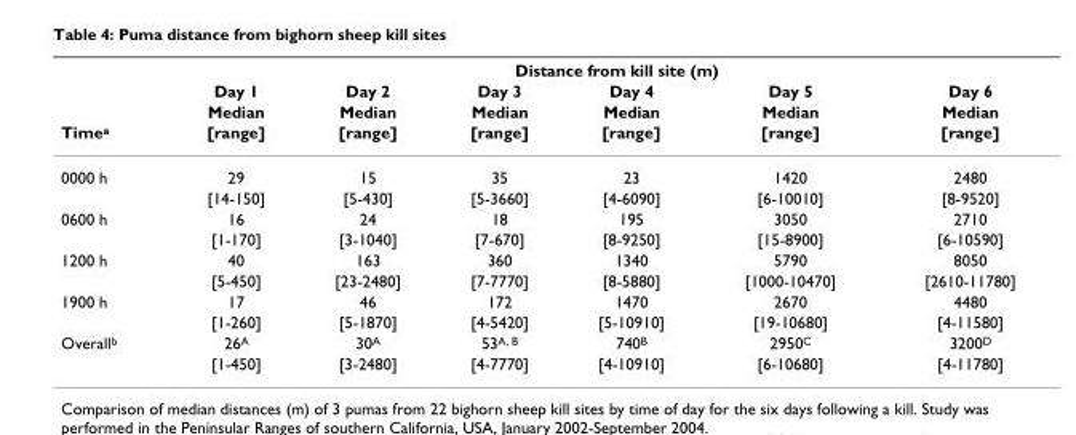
<table><thead><tr><td rowspan="4">Time<sup>a</sup></td><td colspan="6">Distance from kill site (m)</td></tr><tr><td rowspan="3">Day 1 Median [range]</td><td rowspan="3">Day 2 Median [range]</td><td rowspan="3">Day 3 Median [range]</td><td rowspan="3">Day 4 Median [range]</td><td rowspan="3">Day 5 Median [range]</td><td rowspan="3">Day 6 Median [range]</td></tr><tr></tr><tr></tr></thead><tbody><tr><td rowspan="2">0000 h</td><td>29</td><td>15</td><td>35</td><td>23</td><td>1420</td><td>2480</td></tr><tr><td>[14-150]</td><td>[5-430]</td><td>[5-3660]</td><td>[4-6090]</td><td>[6-10010]</td><td>[8-9520]</td></tr><tr><td rowspan="2">0600 h</td><td>16</td><td>24</td><td>18</td><td>195</td><td>3050</td><td>2710</td></tr><tr><td>[1-170]</td><td>[3-1040]</td><td>[7-670]</td><td>[8-9250]</td><td>[15-8900]</td><td>[6-10590]</td></tr><tr><td rowspan="2">1200 h</td><td>40</td><td>163</td><td>360</td><td>1340</td><td>5790</td><td>8050</td></tr><tr><td>[5-450]</td><td>[23-2480]</td><td>[7-7770]</td><td>[8-5880]</td><td>[1000-10470]</td><td>[2610-11780]</td></tr><tr><td rowspan="2">1900 h</td><td>17</td><td>46</td><td>172</td><td>1470</td><td>2670</td><td>4480</td></tr><tr><td>[1-260]</td><td>[5-1870]</td><td>[4-5420]</td><td>[5-10910]</td><td>[19-10680]</td><td>[4-11580]</td></tr><tr><td rowspan="2">Overall<sup>b</sup></td><td>26<sup>A</sup></td><td>30<sup>A</sup></td><td>53<sup>A, B</sup></td><td>740<sup>B</sup></td><td>2950<sup>C</sup></td><td>3200<sup>D</sup></td></tr><tr><td>[1-450]</td><td>[3-2480]</td><td>[4-7770]</td><td>[4-10910]</td><td>[6-10680]</td><td>[4-11780]</td></tr></tbody></table>